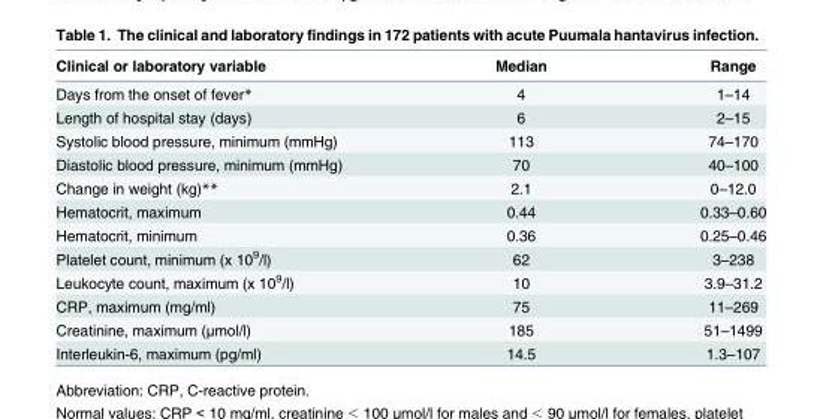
<table><thead><tr><td>Clinical or laboratory variable</td><td>Median</td><td>Range</td></tr></thead><tbody><tr><td>Days from the onset of fever*</td><td>4</td><td>1–14</td></tr><tr><td>Length of hospital stay (days)</td><td>6</td><td>2–15</td></tr><tr><td>Systolic blood pressure, minimum (mmHg)</td><td>113</td><td>74–170</td></tr><tr><td>Diastolic blood pressure, minimum (mmHg)</td><td>70</td><td>40–100</td></tr><tr><td>Change in weight (kg)**</td><td>2.1</td><td>0–12.0</td></tr><tr><td>Hematocrit, maximum</td><td>0.44</td><td>0.33–0.60</td></tr><tr><td>Hematocrit, minimum</td><td>0.36</td><td>0.25–0.46</td></tr><tr><td>Platelet count, minimum (x 10<sup>9</sup>/l)</td><td>62</td><td>3–238</td></tr><tr><td>Leukocyte count, maximum (x 10<sup>9</sup>/l)</td><td>10</td><td>3.9–31.2</td></tr><tr><td>CRP, maximum (mg/ml)</td><td>75</td><td>11–269</td></tr><tr><td>Creatinine, maximum (μmol/l)</td><td>185</td><td>51–1499</td></tr><tr><td>Interleukin-6, maximum (pg/ml)</td><td>14.5</td><td>1.3–107</td></tr></tbody></table>